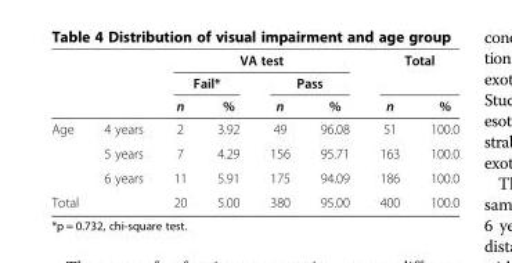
<table><thead><tr><td rowspan="3"></td><td rowspan="3"></td><td colspan="4">VA test</td><td rowspan="2" colspan="2">Total</td></tr><tr><td colspan="2">Fail*</td><td colspan="2">Pass</td></tr><tr><td>n</td><td>%</td><td>n</td><td>%</td><td>n</td><td>%</td></tr></thead><tbody><tr><td rowspan="3">Age</td><td>4 years</td><td>2</td><td>3.92</td><td>49</td><td>96.08</td><td>51</td><td>100.0</td></tr><tr><td>5 years</td><td>7</td><td>4.29</td><td>156</td><td>95.71</td><td>163</td><td>100.0</td></tr><tr><td>6 years</td><td>11</td><td>5.91</td><td>175</td><td>94.09</td><td>186</td><td>100.0</td></tr><tr><td colspan="2">Total</td><td>20</td><td>5.00</td><td>380</td><td>95.00</td><td>400</td><td>100.0</td></tr></tbody></table>